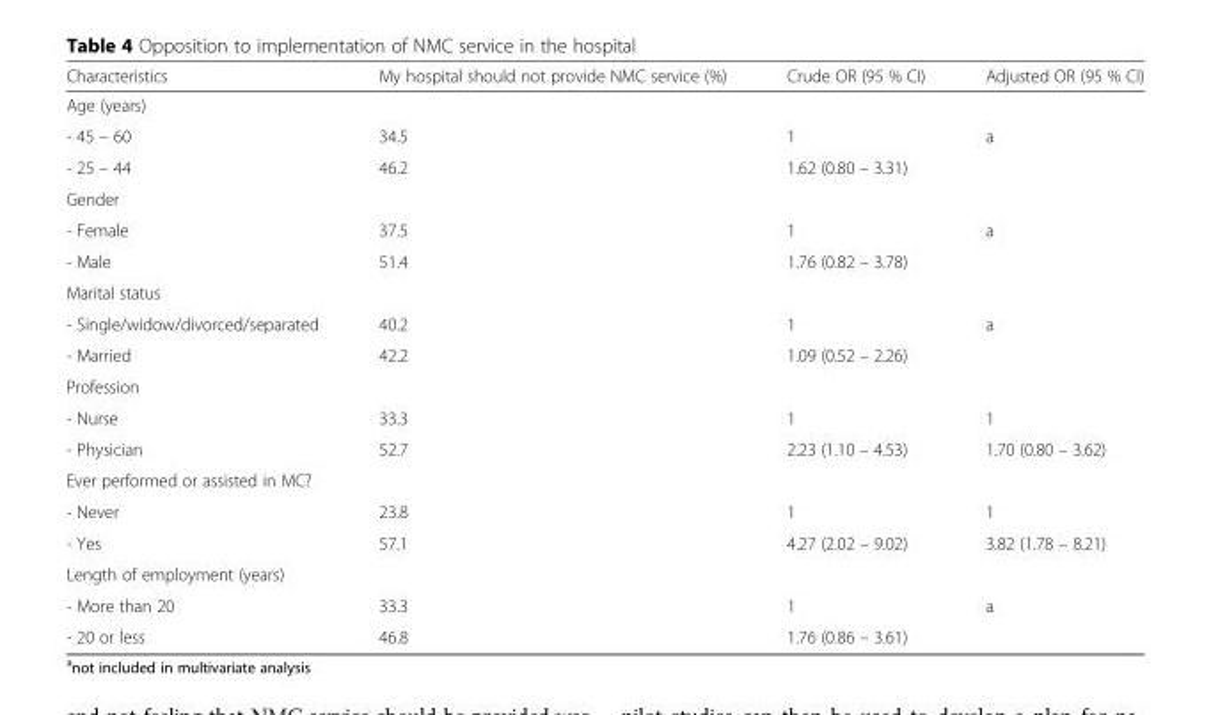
<table><thead><tr><td>Characteristics</td><td>My hospital should not provide NMC service (%)</td><td>Crude OR (95 % CI)</td><td>Adjusted OR (95 % CI)</td></tr></thead><tbody><tr><td colspan="4">Age (years)</td></tr><tr><td>- 45 – 60</td><td>34.5</td><td>1</td><td rowspan="2">a</td></tr><tr><td>- 25 – 44</td><td>46.2</td><td>1.62 (0.80 – 3.31)</td></tr><tr><td colspan="4">Gender</td></tr><tr><td>- Female</td><td>37.5</td><td>1</td><td rowspan="2">a</td></tr><tr><td>- Male</td><td>51.4</td><td>1.76 (0.82 – 3.78)</td></tr><tr><td colspan="4">Marital status</td></tr><tr><td>- Single/widow/divorced/separated</td><td>40.2</td><td>1</td><td rowspan="2">a</td></tr><tr><td>- Married</td><td>42.2</td><td>1.09 (0.52 – 2.26)</td></tr><tr><td colspan="4">Profession</td></tr><tr><td>- Nurse</td><td>33.3</td><td>1</td><td>1</td></tr><tr><td>- Physician</td><td>52.7</td><td>2.23 (1.10 – 4.53)</td><td>1.70 (0.80 – 3.62)</td></tr><tr><td colspan="4">Ever performed or assisted in MC?</td></tr><tr><td>- Never</td><td>23.8</td><td>1</td><td>1</td></tr><tr><td>- Yes</td><td>57.1</td><td>4.27 (2.02 – 9.02)</td><td>3.82 (1.78 – 8.21)</td></tr><tr><td colspan="4">Length of employment (years)</td></tr><tr><td>- More than 20</td><td>33.3</td><td>1</td><td rowspan="2">a</td></tr><tr><td>- 20 or less</td><td>46.8</td><td>1.76 (0.86 – 3.61)</td></tr></tbody></table>